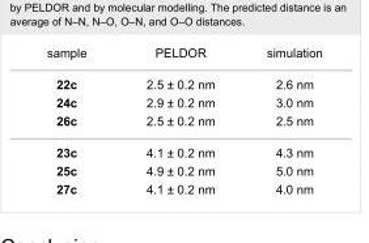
<table><tbody><tr><td>sample</td><td>PELDOR</td><td>simulation</td></tr><tr><td>22c</td><td>2.5 ± 0.2 nm</td><td>2.6 nm</td></tr><tr><td>24c</td><td>2.9 ± 0.2 nm</td><td>3.0 nm</td></tr><tr><td>26c</td><td>2.5 ± 0.2 nm</td><td>2.5 nm</td></tr><tr><td>23c</td><td>4.1 ± 0.2 nm</td><td>4.3 nm</td></tr><tr><td>25c</td><td>4.9 ± 0.2 nm</td><td>5.0 nm</td></tr><tr><td>27c</td><td>4.1 ± 0.2 nm</td><td>4.0 nm</td></tr></tbody></table>